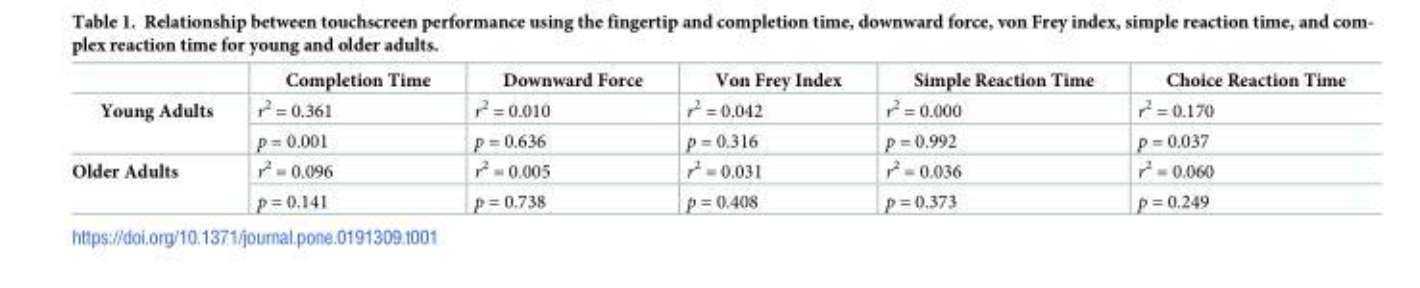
<table><thead><tr><td></td><td>Completion Time</td><td>Downward Force</td><td>Von Frey Index</td><td>Simple Reaction Time</td><td>Choice Reaction Time</td></tr></thead><tbody><tr><td rowspan="2">Young Adults</td><td>r<sup>2</sup> = 0.361</td><td>r<sup>2</sup> = 0.010</td><td>r<sup>2</sup> = 0.042</td><td>r<sup>2</sup> = 0.000</td><td>r<sup>2</sup> = 0.170</td></tr><tr><td>p = 0.001</td><td>p = 0.636</td><td>p = 0.316</td><td>p = 0.992</td><td>p = 0.037</td></tr><tr><td rowspan="2">Older Adults</td><td>r<sup>2</sup> = 0.096</td><td>r<sup>2</sup> = 0.005</td><td>r<sup>2</sup> = 0.031</td><td>r<sup>2</sup> = 0.036</td><td>r<sup>2</sup> = 0.060</td></tr><tr><td>p = 0.141</td><td>p = 0.738</td><td>p = 0.408</td><td>p = 0.373</td><td>p = 0.249</td></tr></tbody></table>